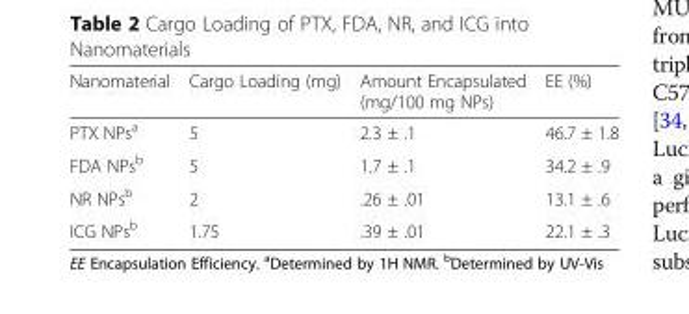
<table><thead><tr><td>Nanomaterial</td><td>Cargo Loading (mg)</td><td>Amount Encapsulated (mg/100 mg NPs)</td><td>EE (%)</td></tr></thead><tbody><tr><td>PTX NPs<sup>a</sup></td><td>5</td><td>2.3 ± .1</td><td>46.7 ± 1.8</td></tr><tr><td>FDA NPs<sup>b</sup></td><td>5</td><td>1.7 ± .1</td><td>34.2 ± .9</td></tr><tr><td>NR NPs<sup>b</sup></td><td>2</td><td>.26 ± .01</td><td>13.1 ± .6</td></tr><tr><td>ICG NPs<sup>b</sup></td><td>1.75</td><td>.39 ± .01</td><td>22.1 ± .3</td></tr></tbody></table>